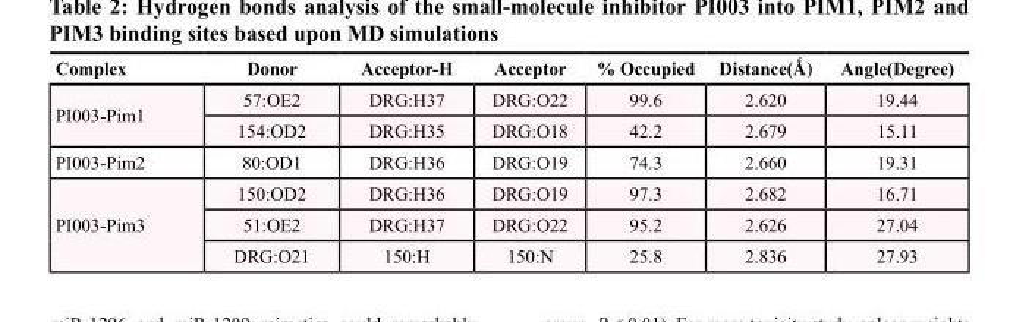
<table><thead><tr><td>Complex</td><td>Donor</td><td>Acceptor-H</td><td>Acceptor</td><td>% Occupied</td><td>Distance(Ǻ)</td><td>Angle(Degree)</td></tr></thead><tbody><tr><td rowspan="2">PI003-Pim1</td><td>57:OE2</td><td>DRG:H37</td><td>DRG:O22</td><td>99.6</td><td>2.620</td><td>19.44</td></tr><tr><td>154:OD2</td><td>DRG:H35</td><td>DRG:O18</td><td>42.2</td><td>2.679</td><td>15.11</td></tr><tr><td>PI003-Pim2</td><td>80:OD1</td><td>DRG:H36</td><td>DRG:O19</td><td>74.3</td><td>2.660</td><td>19.31</td></tr><tr><td rowspan="3">PI003-Pim3</td><td>150:OD2</td><td>DRG:H36</td><td>DRG:O19</td><td>97.3</td><td>2.682</td><td>16.71</td></tr><tr><td>51:OE2</td><td>DRG:H37</td><td>DRG:O22</td><td>95.2</td><td>2.626</td><td>27.04</td></tr><tr><td>DRG:O21</td><td>150:H</td><td>150:N</td><td>25.8</td><td>2.836</td><td>27.93</td></tr></tbody></table>